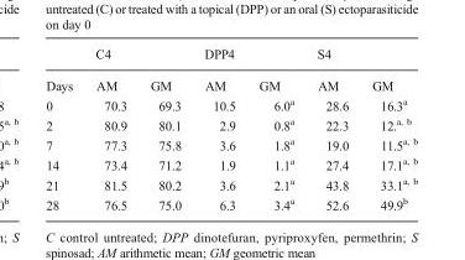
<table><thead><tr><td rowspan="2">Days</td><td colspan="2">C4</td><td colspan="2">DPP4</td><td colspan="2">S4</td></tr><tr><td>AM</td><td>GM</td><td>AM</td><td>GM</td><td>AM</td><td>GM</td></tr></thead><tbody><tr><td>0</td><td>70.3</td><td>69.3</td><td>10.5</td><td>6.0<sup>a</sup></td><td>28.6</td><td>16.3<sup>a</sup></td></tr><tr><td>2</td><td>80.9</td><td>80.1</td><td>2.9</td><td>0.8<sup>a</sup></td><td>22.3</td><td>12.<sup>a, b</sup></td></tr><tr><td>7</td><td>77.3</td><td>75.8</td><td>3.6</td><td>1.8<sup>a</sup></td><td>19.0</td><td>11.5<sup>a, b</sup></td></tr><tr><td>14</td><td>73.4</td><td>71.2</td><td>1.9</td><td>1.1<sup>a</sup></td><td>27.4</td><td>17.1<sup>a, b</sup></td></tr><tr><td>21</td><td>81.5</td><td>80.2</td><td>3.6</td><td>2.1<sup>a</sup></td><td>43.8</td><td>33.1<sup>a, b</sup></td></tr><tr><td>28</td><td>76.5</td><td>75.0</td><td>6.3</td><td>3.4<sup>a</sup></td><td>52.6</td><td>49.9<sup>b</sup></td></tr></tbody></table>